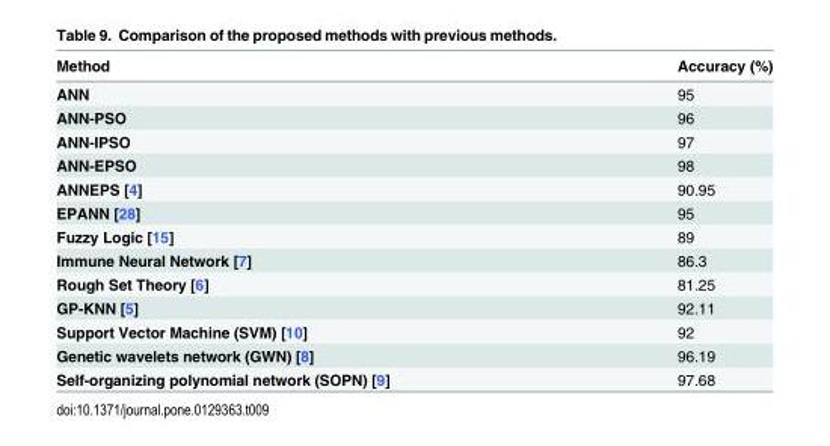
<table><thead><tr><td>Method</td><td>Accuracy (%)</td></tr></thead><tbody><tr><td>ANN</td><td>95</td></tr><tr><td>ANN-PSO</td><td>96</td></tr><tr><td>ANN-IPSO</td><td>97</td></tr><tr><td>ANN-EPSO</td><td>98</td></tr><tr><td>ANNEPS [4]</td><td>90.95</td></tr><tr><td>EPANN [28]</td><td>95</td></tr><tr><td>Fuzzy Logic [15]</td><td>89</td></tr><tr><td>Immune Neural Network [7]</td><td>86.3</td></tr><tr><td>Rough Set Theory [6]</td><td>81.25</td></tr><tr><td>GP-KNN [5]</td><td>92.11</td></tr><tr><td>Support Vector Machine (SVM) [10]</td><td>92</td></tr><tr><td>Genetic wavelets network (GWN) [8]</td><td>96.19</td></tr><tr><td>Self-organizing polynomial network (SOPN) [9]</td><td>97.68</td></tr></tbody></table>